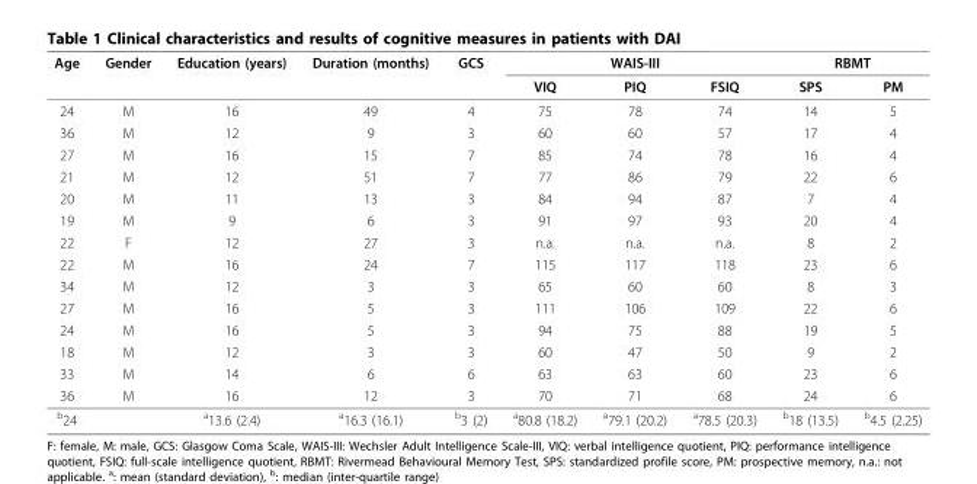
<table><thead><tr><td rowspan="2">Age</td><td rowspan="2">Gender</td><td rowspan="2">Education (years)</td><td rowspan="2">Duration (months)</td><td rowspan="2">GCS</td><td colspan="3">WAIS-III</td><td colspan="2">RBMT</td></tr><tr><td>VIQ</td><td>PIQ</td><td>FSIQ</td><td>SPS</td><td>PM</td></tr></thead><tbody><tr><td>24</td><td>M</td><td>16</td><td>49</td><td>4</td><td>75</td><td>78</td><td>74</td><td>14</td><td>5</td></tr><tr><td>36</td><td>M</td><td>12</td><td>9</td><td>3</td><td>60</td><td>60</td><td>57</td><td>17</td><td>4</td></tr><tr><td>27</td><td>M</td><td>16</td><td>15</td><td>7</td><td>85</td><td>74</td><td>78</td><td>16</td><td>4</td></tr><tr><td>21</td><td>M</td><td>12</td><td>51</td><td>7</td><td>77</td><td>86</td><td>79</td><td>22</td><td>6</td></tr><tr><td>20</td><td>M</td><td>11</td><td>13</td><td>3</td><td>84</td><td>94</td><td>87</td><td>7</td><td>4</td></tr><tr><td>19</td><td>M</td><td>9</td><td>6</td><td>3</td><td>91</td><td>97</td><td>93</td><td>20</td><td>4</td></tr><tr><td>22</td><td>F</td><td>12</td><td>27</td><td>3</td><td>n.a.</td><td>n.a.</td><td>n.a.</td><td>8</td><td>2</td></tr><tr><td>22</td><td>M</td><td>16</td><td>24</td><td>7</td><td>115</td><td>117</td><td>118</td><td>23</td><td>6</td></tr><tr><td>34</td><td>M</td><td>12</td><td>3</td><td>3</td><td>65</td><td>60</td><td>60</td><td>8</td><td>3</td></tr><tr><td>27</td><td>M</td><td>16</td><td>5</td><td>3</td><td>111</td><td>106</td><td>109</td><td>22</td><td>6</td></tr><tr><td>24</td><td>M</td><td>16</td><td>5</td><td>3</td><td>94</td><td>75</td><td>88</td><td>19</td><td>5</td></tr><tr><td>18</td><td>M</td><td>12</td><td>3</td><td>3</td><td>60</td><td>47</td><td>50</td><td>9</td><td>2</td></tr><tr><td>33</td><td>M</td><td>14</td><td>6</td><td>6</td><td>63</td><td>63</td><td>60</td><td>23</td><td>6</td></tr><tr><td>36</td><td>M</td><td>16</td><td>12</td><td>3</td><td>70</td><td>71</td><td>68</td><td>24</td><td>6</td></tr><tr><td><sup>b</sup>24</td><td></td><td><sup>a</sup>13.6 (2.4)</td><td><sup>a</sup>16.3 (16.1)</td><td><sup>b</sup>3 (2)</td><td><sup>a</sup>80.8 (18.2)</td><td><sup>a</sup>79.1 (20.2)</td><td><sup>a</sup>78.5 (20.3)</td><td><sup>b</sup>18 (13.5)</td><td><sup>b</sup>4.5 (2.25)</td></tr></tbody></table>